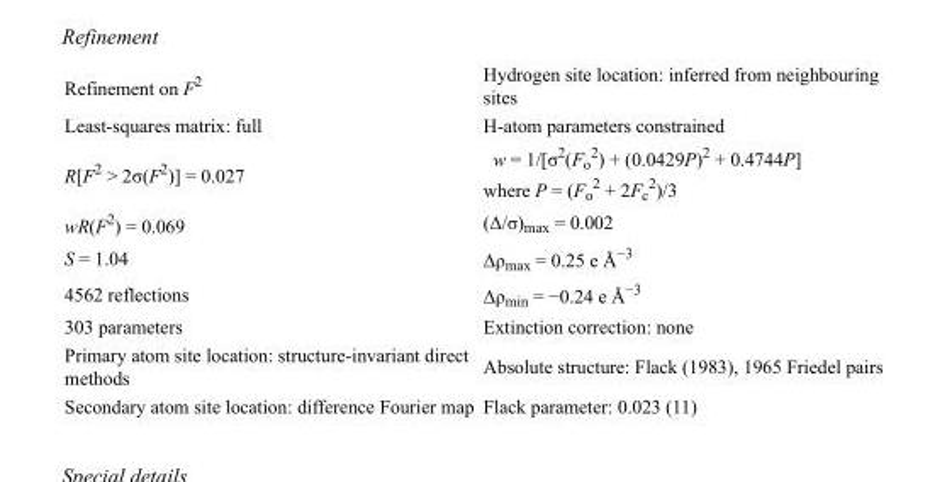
<table><tbody><tr><td>Refinement on F<sup>2</sup></td><td>Hydrogen site location: inferred from neighbouring sites</td></tr><tr><td>Least-squares matrix: full</td><td>H-atom parameters constrained</td></tr><tr><td>R[F<sup>2</sup> &gt; 2σ(F<sup>2</sup>)] = 0.027</td><td>w = 1/[σ<sup>2</sup>(F<sub>o</sub> <sup>2</sup>) + (0.0429P)<sup>2</sup> + 0.4744P] where P = (F<sub>o</sub> <sup>2</sup> + 2F<sub>c</sub> <sup>2</sup>)/3</td></tr><tr><td>wR(F<sup>2</sup>) = 0.069</td><td>(Δ/σ)<sub>max</sub> = 0.002</td></tr><tr><td>S = 1.04</td><td>Δρ<sub>max</sub> = 0.25 e Å<sup>−3</sup></td></tr><tr><td>4562 reflections</td><td>Δρ<sub>min</sub> = −0.24 e Å<sup>−3</sup></td></tr><tr><td>303 parameters</td><td>Extinction correction: none</td></tr><tr><td>Primary atom site location: structure-invariant direct methods</td><td>Absolute structure: Flack (1983), 1965 Friedel pairs</td></tr><tr><td>Secondary atom site location: difference Fourier map</td><td>Flack parameter: 0.023 (11)</td></tr></tbody></table>